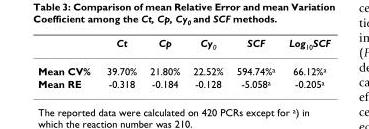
<table><thead><tr><td></td><td>Ct</td><td>Cp</td><td>Cy<sub>0</sub></td><td>SCF</td><td>Log<sub>10</sub>SCF</td></tr></thead><tbody><tr><td>Mean CV%</td><td>39.70%</td><td>21.80%</td><td>22.52%</td><td>594.74%<sup>a</sup></td><td>66.12%<sup>a</sup></td></tr><tr><td>Mean RE</td><td>-0.318</td><td>-0.184</td><td>-0.128</td><td>-5.058<sup>a</sup></td><td>-0.205<sup>a</sup></td></tr></tbody></table>